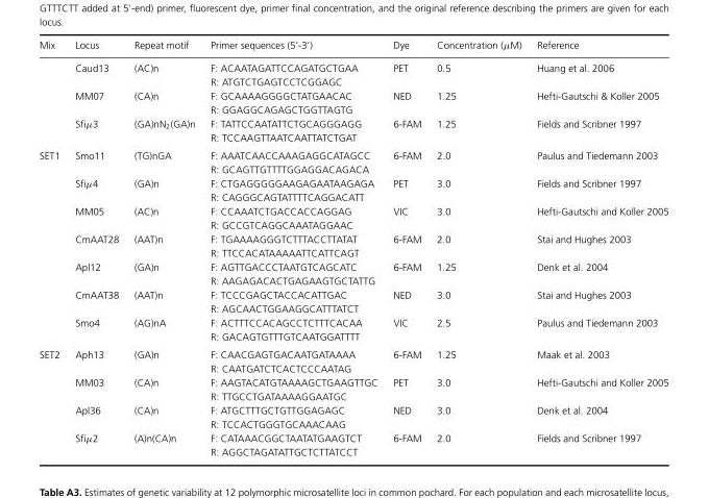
<table><thead><tr><td>Mix</td><td>Locus</td><td>Repeat motif</td><td>Primer sequences (5’-3’)</td><td>Dye</td><td>Concentration (μM)</td><td>Reference</td></tr></thead><tbody><tr><td></td><td>Caud13</td><td>(AC)n</td><td>F: ACAATAGATTCCAGATGCTGAA</td><td>PET</td><td>0.5</td><td>Huang et al. 2006</td></tr><tr><td></td><td></td><td></td><td>R: ATGTCTGAGTCCTCGGAGC</td><td></td><td></td><td></td></tr><tr><td></td><td>MM07</td><td>(CA)n</td><td>F: GCAAAAGGGGCTATGAACAC</td><td>NED</td><td>1.25</td><td>Hefti-Gautschi &amp; Koller 2005</td></tr><tr><td></td><td></td><td></td><td>R: GGAGGCAGAGCTGGTTAGTG</td><td></td><td></td><td></td></tr><tr><td></td><td>Sfiμ3</td><td>(GA)nN<sub>2</sub>(GA)n</td><td>F: TATTCCAATATTCTGCAGGGAGG</td><td>6-FAM</td><td>1.25</td><td>Fields and Scribner 1997</td></tr><tr><td></td><td></td><td></td><td>R: TCCAAGTTAATCAATTATCTGAT</td><td></td><td></td><td></td></tr><tr><td rowspan="14">SET1</td><td>Smo11</td><td>(TG)nGA</td><td>F: AAATCAACCAAAGAGGCATAGCC</td><td>6-FAM</td><td>2.0</td><td>Paulus and Tiedemann 2003</td></tr><tr><td></td><td></td><td>R: GCAGTTGTTTTGGAGGACAGACA</td><td></td><td></td><td></td></tr><tr><td>Sfiμ4</td><td>(GA)n</td><td>F: CTGAGGGGGAAGAGAATAAGAGA</td><td>PET</td><td>3.0</td><td>Fields and Scribner 1997</td></tr><tr><td></td><td></td><td>R: CAGGGCAGTATTTTCAGGACATT</td><td></td><td></td><td></td></tr><tr><td>MM05</td><td>(AC)n</td><td>F: CCAAATCTGACCACCAGGAG</td><td>VIC</td><td>3.0</td><td>Hefti-Gautschi and Koller 2005</td></tr><tr><td></td><td></td><td>R: GCCGTCAGGCAAATAGGAAC</td><td></td><td></td><td></td></tr><tr><td>CmAAT28</td><td>(AAT)n</td><td>F: TGAAAAGGGTCTTTACCTTATAT</td><td>6-FAM</td><td>2.0</td><td>Stai and Hughes 2003</td></tr><tr><td></td><td></td><td>R: TTCCACATAAAAATTCATTCAGT</td><td></td><td></td><td></td></tr><tr><td>Apl12</td><td>(GA)n</td><td>F: AGTTGACCCTAATGTCAGCATC</td><td>6-FAM</td><td>1.25</td><td>Denk et al. 2004</td></tr><tr><td></td><td></td><td>R: AAGAGACACTGAGAAGTGCTATTG</td><td></td><td></td><td></td></tr><tr><td>CmAAT38</td><td>(AAT)n</td><td>F: TCCCGAGCTACCACATTGAC</td><td>NED</td><td>3.0</td><td>Stai and Hughes 2003</td></tr><tr><td></td><td></td><td>R: AGCAACTGGAAGGCATTTATCT</td><td></td><td></td><td></td></tr><tr><td>Smo4</td><td>(AG)nA</td><td>F: ACTTTCCACAGCCTCTTTCACAA</td><td>VIC</td><td>2.5</td><td>Paulus and Tiedemann 2003</td></tr><tr><td></td><td></td><td>R: GACAGTGTTTGTCAATGGATTTT</td><td></td><td></td><td></td></tr><tr><td rowspan="8">SET2</td><td>Aph13</td><td>(GA)n</td><td>F: CAACGAGTGACAATGATAAAA</td><td>6-FAM</td><td>1.25</td><td>Maak et al. 2003</td></tr><tr><td></td><td></td><td>R: CAATGATCTCACTCCCAATAG</td><td></td><td></td><td></td></tr><tr><td>MM03</td><td>(CA)n</td><td>F: AAGTACATGTAAAAGCTGAAGTTGC</td><td>PET</td><td>3.0</td><td>Hefti-Gautschi and Koller 2005</td></tr><tr><td></td><td></td><td>R: TTGCCTGATAAAAGGAATGC</td><td></td><td></td><td></td></tr><tr><td>Apl36</td><td>(CA)n</td><td>F: ATGCTTTGCTGTTGGAGAGC</td><td>NED</td><td>3.0</td><td>Denk et al. 2004</td></tr><tr><td></td><td></td><td>R: TCCACTGGGTGCAAACAAG</td><td></td><td></td><td></td></tr><tr><td>Sfiμ2</td><td>(A)n(CA)n</td><td>F: CATAAACGGCTAATATGAAGTCT</td><td>6-FAM</td><td>2.0</td><td>Fields and Scribner 1997</td></tr><tr><td></td><td></td><td>R: AGGCTAGATATTGCTCTTATCCT</td><td></td><td></td><td></td></tr></tbody></table>